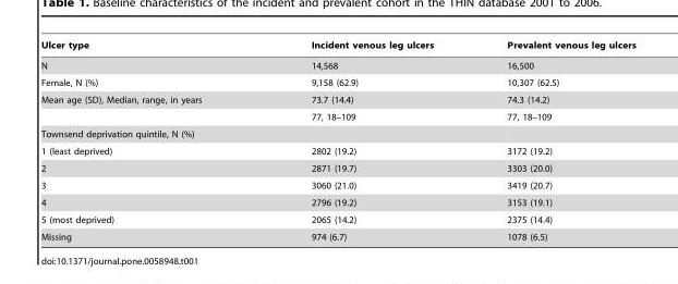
<table><thead><tr><td>Ulcer type</td><td>Incident venous leg ulcers</td><td>Prevalent venous leg ulcers</td></tr></thead><tbody><tr><td>N</td><td>14,568</td><td>16,500</td></tr><tr><td>Female, N (%)</td><td>9,158 (62.9)</td><td>10,307 (62.5)</td></tr><tr><td rowspan="2">Mean age (SD), Median, range, in years</td><td>73.7 (14.4)</td><td>74.3 (14.2)</td></tr><tr><td>77, 18–109</td><td>77, 18–109</td></tr><tr><td colspan="3">Townsend deprivation quintile, N (%)</td></tr><tr><td>1 (least deprived)</td><td>2802 (19.2)</td><td>3172 (19.2)</td></tr><tr><td>2</td><td>2871 (19.7)</td><td>3303 (20.0)</td></tr><tr><td>3</td><td>3060 (21.0)</td><td>3419 (20.7)</td></tr><tr><td>4</td><td>2796 (19.2)</td><td>3153 (19.1)</td></tr><tr><td>5 (most deprived)</td><td>2065 (14.2)</td><td>2375 (14.4)</td></tr><tr><td>Missing</td><td>974 (6.7)</td><td>1078 (6.5)</td></tr></tbody></table>